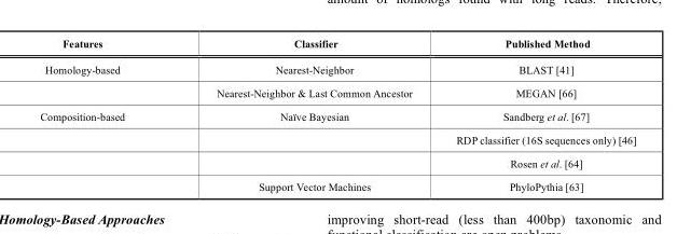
<table><thead><tr><td>Features</td><td>Classifier</td><td>Published Method</td></tr></thead><tbody><tr><td rowspan="2">Homology-based</td><td>Nearest-Neighbor</td><td>BLAST [41]</td></tr><tr><td>Nearest-Neighbor &amp; Last Common Ancestor</td><td>MEGAN [66]</td></tr><tr><td rowspan="4">Composition-based</td><td>Naïve Bayesian</td><td>Sandberg et al. [67]</td></tr><tr><td></td><td>RDP classifier (16S sequences only) [46]</td></tr><tr><td></td><td>Rosen et al. [64]</td></tr><tr><td>Support Vector Machines</td><td>PhyloPythia [63]</td></tr></tbody></table>